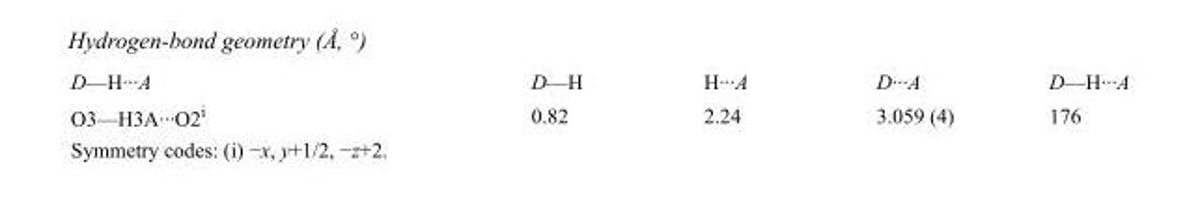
<table><tbody><tr><td>D—H···A</td><td>D—H</td><td>H···A</td><td>D···A</td><td>D—H···A</td></tr><tr><td>O3—H3A···O2<sup>i</sup></td><td>0.82</td><td>2.24</td><td>3.059 (4)</td><td>176</td></tr></tbody></table>